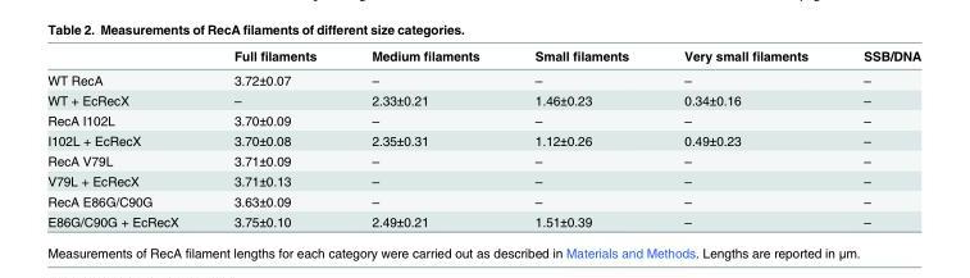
<table><thead><tr><td></td><td>Full filaments</td><td>Medium filaments</td><td>Small filaments</td><td>Very small filaments</td><td>SSB/DNA</td></tr></thead><tbody><tr><td>WT RecA</td><td>3.72±0.07</td><td>–</td><td>–</td><td>–</td><td>–</td></tr><tr><td>WT + EcRecX</td><td>–</td><td>2.33±0.21</td><td>1.46±0.23</td><td>0.34±0.16</td><td>–</td></tr><tr><td>RecA I102L</td><td>3.70±0.09</td><td>–</td><td>–</td><td>–</td><td>–</td></tr><tr><td>I102L + EcRecX</td><td>3.70±0.08</td><td>2.35±0.31</td><td>1.12±0.26</td><td>0.49±0.23</td><td>–</td></tr><tr><td>RecA V79L</td><td>3.71±0.09</td><td>–</td><td>–</td><td>–</td><td>–</td></tr><tr><td>V79L + EcRecX</td><td>3.71±0.13</td><td>–</td><td>–</td><td>–</td><td>–</td></tr><tr><td>RecA E86G/C90G</td><td>3.63±0.09</td><td>–</td><td>–</td><td>–</td><td>–</td></tr><tr><td>E86G/C90G + EcRecX</td><td>3.75±0.10</td><td>2.49±0.21</td><td>1.51±0.39</td><td>–</td><td>–</td></tr></tbody></table>